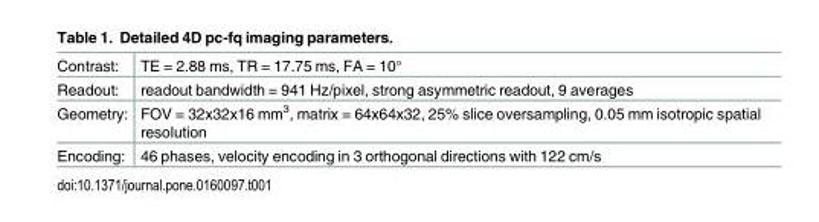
<table><tbody><tr><td>Contrast:</td><td>TE = 2.88 ms, TR = 17.75 ms, FA = 10°</td></tr><tr><td>Readout:</td><td>readout bandwidth = 941 Hz/pixel, strong asymmetric readout, 9 averages</td></tr><tr><td>Geometry:</td><td>FOV = 32x32x16 mm<sup>3</sup>, matrix = 64x64x32, 25% slice oversampling, 0.05 mm isotropic spatial resolution</td></tr><tr><td>Encoding:</td><td>46 phases, velocity encoding in 3 orthogonal directions with 122 cm/s</td></tr></tbody></table>